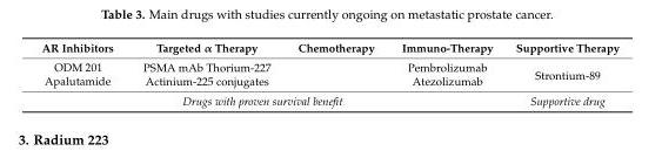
<table><thead><tr><td>AR Inhibitors</td><td>Targeted α Therapy</td><td>Chemotherapy</td><td>Immuno-Therapy</td><td>Supportive Therapy</td></tr></thead><tbody><tr><td rowspan="2">ODM 201 Apalutamide</td><td>PSMA mAb Thorium-227</td><td rowspan="2"></td><td>Pembrolizumab</td><td rowspan="2">Strontium-89</td></tr><tr><td>Actinium-225 conjugates</td><td>Atezolizumab</td></tr><tr><td colspan="4">Drugs with proven survival benefit</td><td>Supportive drug</td></tr></tbody></table>